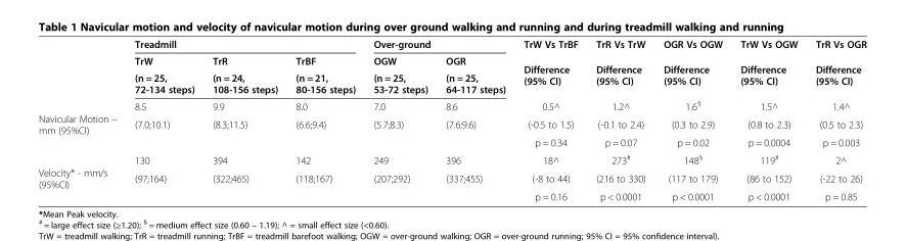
<table><thead><tr><td rowspan="3"></td><td colspan="3">Treadmill</td><td colspan="2">Over-ground</td><td rowspan="3">TrW Vs TrBF Difference (95% CI)</td><td rowspan="3">TrR Vs TrW Difference (95% CI)</td><td rowspan="3">OGR Vs OGW Difference (95% CI)</td><td rowspan="3">TrW Vs OGW Difference (95% CI)</td><td rowspan="3">TrR Vs OGR Difference (95% CI)</td></tr><tr><td rowspan="2">TrW (n = 25, 72-134 steps)</td><td rowspan="2">TrR (n = 24, 108-156 steps)</td><td rowspan="2">TrBF (n = 21, 80-156 steps)</td><td rowspan="2">OGW (n = 25, 53-72 steps)</td><td rowspan="2">OGR (n = 25, 64-117 steps)</td></tr><tr></tr></thead><tbody><tr><td rowspan="3">Navicular Motion – mm (95%CI)</td><td>8.5</td><td>9.9</td><td>8.0</td><td>7.0</td><td>8.6</td><td>0.5^</td><td>1.2^</td><td>1.6<sup>§</sup></td><td>1.5^</td><td>1.4^</td></tr><tr><td>(7.0;10.1)</td><td>(8.3;11.5)</td><td>(6.6;9.4)</td><td>(5.7;8.3)</td><td>(7.6;9.6)</td><td>(-0.5 to 1.5)</td><td>(-0.1 to 2.4)</td><td>(0.3 to 2.9)</td><td>(0.8 to 2.3)</td><td>(0.5 to 2.3)</td></tr><tr><td></td><td></td><td></td><td></td><td></td><td>p = 0.34</td><td>p = 0.07</td><td>p = 0.02</td><td>p = 0.0004</td><td>p = 0.003</td></tr><tr><td rowspan="3">Velocity* - mm/s (95%CI)</td><td>130</td><td>394</td><td>142</td><td>249</td><td>396</td><td>18^</td><td>273<sup>#</sup></td><td>148<sup>§</sup></td><td>119<sup>#</sup></td><td>2^</td></tr><tr><td>(97;164)</td><td>(322;465)</td><td>(118;167)</td><td>(207;292)</td><td>(337;455)</td><td>(-8 to 44)</td><td>(216 to 330)</td><td>(117 to 179)</td><td>(86 to 152)</td><td>(-22 to 26)</td></tr><tr><td></td><td></td><td></td><td></td><td></td><td>p = 0.16</td><td>p &lt; 0.0001</td><td>p &lt; 0.0001</td><td>p &lt; 0.0001</td><td>p = 0.85</td></tr></tbody></table>